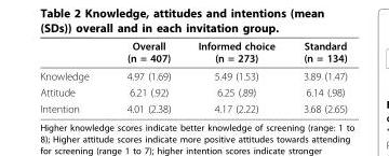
<table><thead><tr><td></td><td>Overall (n = 407)</td><td>Informed choice (n = 273)</td><td>Standard (n = 134)</td></tr></thead><tbody><tr><td>Knowledge</td><td>4.97 (1.69)</td><td>5.49 (1.53)</td><td>3.89 (1.47)</td></tr><tr><td>Attitude</td><td>6.21 (.92)</td><td>6.25 (.89)</td><td>6.14 (.98)</td></tr><tr><td>Intention</td><td>4.01 (2.38)</td><td>4.17 (2.22)</td><td>3.68 (2.65)</td></tr></tbody></table>